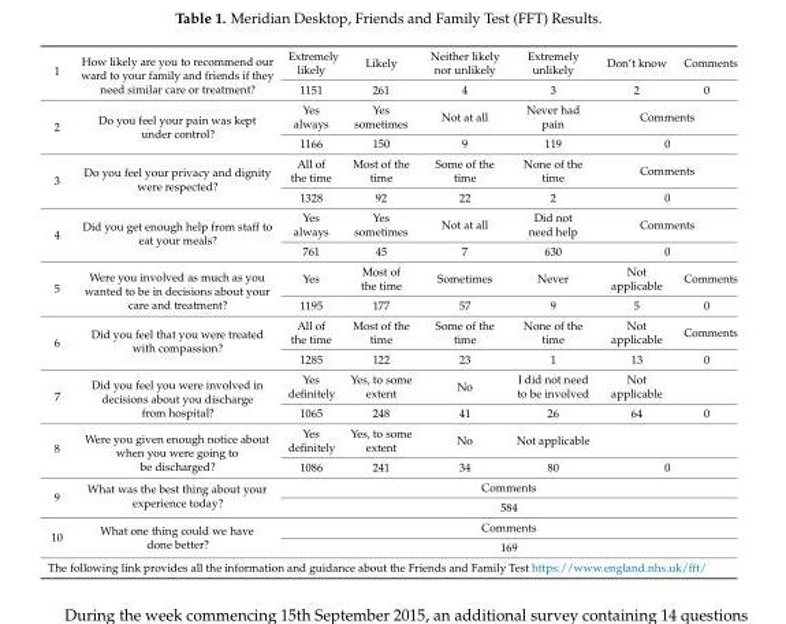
<table><tbody><tr><td rowspan="2">1</td><td rowspan="2">How likely are you to recommend our ward to your family and friends if they need similar care or treatment?</td><td>Extremely likely</td><td>Likely</td><td>Neither likely nor unlikely</td><td>Extremely unlikely</td><td>Don’t know</td><td>Comments</td></tr><tr><td>1151</td><td>261</td><td>4</td><td>3</td><td>2</td><td>0</td></tr><tr><td rowspan="2">2</td><td rowspan="2">Do you feel your pain was kept under control?</td><td>Yes always</td><td>Yes sometimes</td><td>Not at all</td><td>Never had pain</td><td colspan="2">Comments</td></tr><tr><td>1166</td><td>150</td><td>9</td><td>119</td><td colspan="2">0</td></tr><tr><td rowspan="2">3</td><td rowspan="2">Do you feel your privacy and dignity were respected?</td><td>All of the time</td><td>Most of the time</td><td>Some of the time</td><td>None of the time</td><td colspan="2">Comments</td></tr><tr><td>1328</td><td>92</td><td>22</td><td>2</td><td colspan="2">0</td></tr><tr><td rowspan="2">4</td><td rowspan="2">Did you get enough help from staff to eat your meals?</td><td>Yes always</td><td>Yes sometimes</td><td>Not at all</td><td>Did not need help</td><td colspan="2">Comments</td></tr><tr><td>761</td><td>45</td><td>7</td><td>630</td><td colspan="2">0</td></tr><tr><td rowspan="2">5</td><td rowspan="2">Were you involved as much as you wanted to be in decisions about your care and treatment?</td><td>Yes</td><td>Most of the time</td><td>Sometimes</td><td>Never</td><td>Not applicable</td><td>Comments</td></tr><tr><td>1195</td><td>177</td><td>57</td><td>9</td><td>5</td><td>0</td></tr><tr><td rowspan="2">6</td><td rowspan="2">Did you feel that you were treated with compassion?</td><td>All of the time</td><td>Most of the time</td><td>Some of the time</td><td>None of the time</td><td>Not applicable</td><td>Comments</td></tr><tr><td>1285</td><td>122</td><td>23</td><td>1</td><td>13</td><td>0</td></tr><tr><td rowspan="2">7</td><td rowspan="2">Did you feel you were involved in decisions about you discharge from hospital?</td><td>Yes definitely</td><td>Yes, to some extent</td><td>No</td><td>I did not need to be involved</td><td>Not applicable</td><td></td></tr><tr><td>1065</td><td>248</td><td>41</td><td>26</td><td>64</td><td>0</td></tr><tr><td rowspan="2">8</td><td rowspan="2">Were you given enough notice about when you were going to be discharged?</td><td>Yes definitely</td><td>Yes, to some extent</td><td>No</td><td>Not applicable</td><td colspan="2"></td></tr><tr><td>1086</td><td>241</td><td>34</td><td>80</td><td colspan="2">0</td></tr><tr><td rowspan="2">9</td><td rowspan="2">What was the best thing about your experience today?</td><td colspan="6">Comments</td></tr><tr><td colspan="6">584</td></tr><tr><td rowspan="2">10</td><td rowspan="2">What one thing could we have done better?</td><td colspan="6">Comments</td></tr><tr><td colspan="6">169</td></tr><tr><td colspan="8">The following link provides all the information and guidance about the Friends and Family Test https://www.england.nhs.uk/fft/</td></tr></tbody></table>